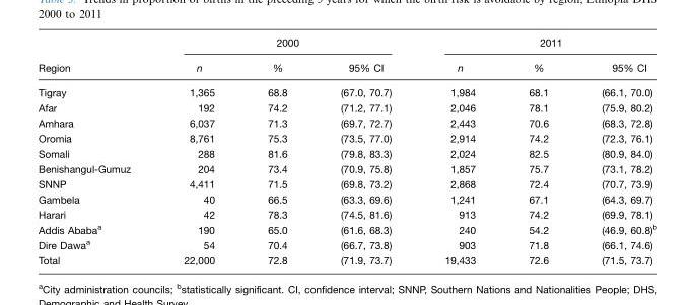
<table><thead><tr><td rowspan="2">Region</td><td colspan="3">2000</td><td colspan="3">2011</td></tr><tr><td>n</td><td>%</td><td>95% CI</td><td>n</td><td>%</td><td>95% CI</td></tr></thead><tbody><tr><td>Tigray</td><td>1,365</td><td>68.8</td><td>(67.0, 70.7)</td><td>1,984</td><td>68.1</td><td>(66.1, 70.0)</td></tr><tr><td>Afar</td><td>192</td><td>74.2</td><td>(71.2, 77.1)</td><td>2,046</td><td>78.1</td><td>(75.9, 80.2)</td></tr><tr><td>Amhara</td><td>6,037</td><td>71.3</td><td>(69.7, 72.7)</td><td>2,443</td><td>70.6</td><td>(68.3, 72.8)</td></tr><tr><td>Oromia</td><td>8,761</td><td>75.3</td><td>(73.5, 77.0)</td><td>2,914</td><td>74.2</td><td>(72.3, 76.1)</td></tr><tr><td>Somali</td><td>288</td><td>81.6</td><td>(79.8, 83.3)</td><td>2,024</td><td>82.5</td><td>(80.9, 84.0)</td></tr><tr><td>Benishangul-Gumuz</td><td>204</td><td>73.4</td><td>(70.9, 75.8)</td><td>1,857</td><td>75.7</td><td>(73.1, 78.2)</td></tr><tr><td>SNNP</td><td>4,411</td><td>71.5</td><td>(69.8, 73.2)</td><td>2,868</td><td>72.4</td><td>(70.7, 73.9)</td></tr><tr><td>Gambela</td><td>40</td><td>66.5</td><td>(63.3, 69.6)</td><td>1,241</td><td>67.1</td><td>(64.3, 69.7)</td></tr><tr><td>Harari</td><td>42</td><td>78.3</td><td>(74.5, 81.6)</td><td>913</td><td>74.2</td><td>(69.9, 78.1)</td></tr><tr><td>Addis Ababaa</td><td>190</td><td>65.0</td><td>(61.6, 68.3)</td><td>240</td><td>54.2</td><td>(46.9, 60.8)b</td></tr><tr><td>Dire Dawaa</td><td>54</td><td>70.4</td><td>(66.7, 73.8)</td><td>903</td><td>71.8</td><td>(66.1, 74.6)</td></tr><tr><td>Total</td><td>22,000</td><td>72.8</td><td>(71.9, 73.7)</td><td>19,433</td><td>72.6</td><td>(71.5, 73.7)</td></tr></tbody></table>